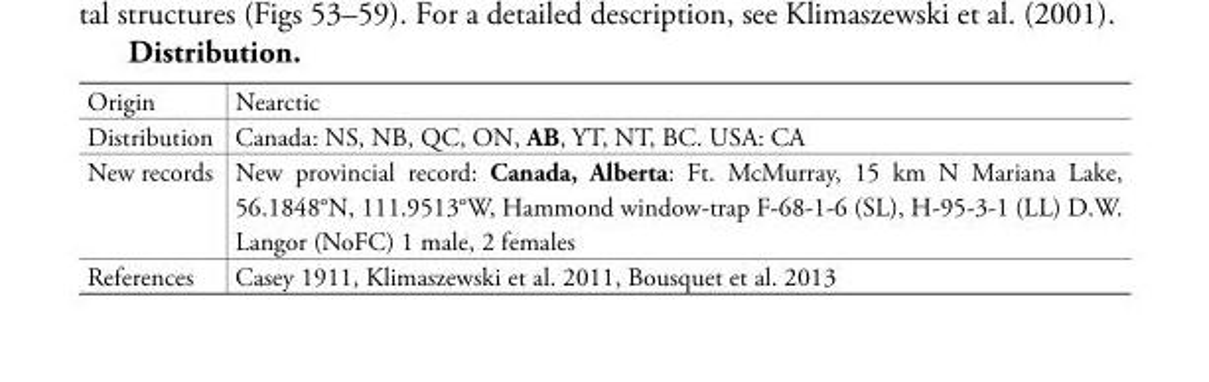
<table><tbody><tr><td>Origin</td><td>Nearctic</td></tr><tr><td>Distribution</td><td>Canada: NS, NB, QC, ON, AB, YT, NT, BC. USA: CA</td></tr><tr><td>New records</td><td>New provincial record: Canada, Alberta: Ft. McMurray, 15 km N Mariana Lake, 56.1848°N, 111.9513°W, Hammond window-trap F-68-1-6 (SL), H-95-3-1 (LL) D.W. Langor (NoFC) 1 male, 2 females</td></tr><tr><td>References</td><td>Casey 1911, Klimaszewski et al. 2011, Bousquet et al. 2013</td></tr></tbody></table>